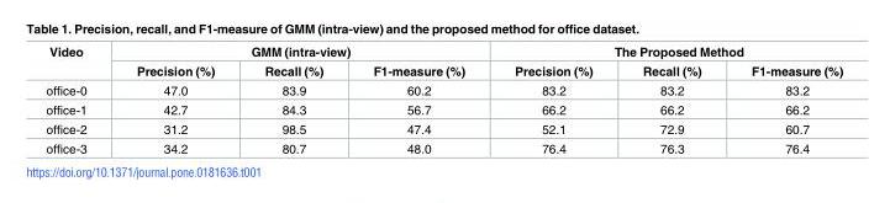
<table><thead><tr><td rowspan="2">Video</td><td colspan="3">GMM (intra-view)</td><td colspan="3">The Proposed Method</td></tr><tr><td>Precision (%)</td><td>Recall (%)</td><td>F1-measure (%)</td><td>Precision (%)</td><td>Recall (%)</td><td>F1-measure (%)</td></tr></thead><tbody><tr><td>office-0</td><td>47.0</td><td>83.9</td><td>60.2</td><td>83.2</td><td>83.2</td><td>83.2</td></tr><tr><td>office-1</td><td>42.7</td><td>84.3</td><td>56.7</td><td>66.2</td><td>66.2</td><td>66.2</td></tr><tr><td>office-2</td><td>31.2</td><td>98.5</td><td>47.4</td><td>52.1</td><td>72.9</td><td>60.7</td></tr><tr><td>office-3</td><td>34.2</td><td>80.7</td><td>48.0</td><td>76.4</td><td>76.3</td><td>76.4</td></tr></tbody></table>